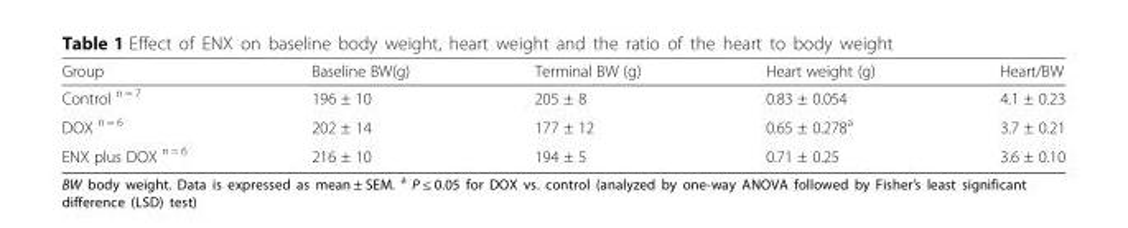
<table><thead><tr><td>Group</td><td>Baseline BW(g)</td><td>Terminal BW (g)</td><td>Heart weight (g)</td><td>Heart/BW</td></tr></thead><tbody><tr><td>Control <sup>n = 7</sup></td><td>196 ± 10</td><td>205 ± 8</td><td>0.83 ± 0.054</td><td>4.1 ± 0.23</td></tr><tr><td>DOX <sup>n = 6</sup></td><td>202 ± 14</td><td>177 ± 12</td><td>0.65 ± 0.278<sup>a</sup></td><td>3.7 ± 0.21</td></tr><tr><td>ENX plus DOX <sup>n = 6</sup></td><td>216 ± 10</td><td>194 ± 5</td><td>0.71 ± 0.25</td><td>3.6 ± 0.10</td></tr></tbody></table>